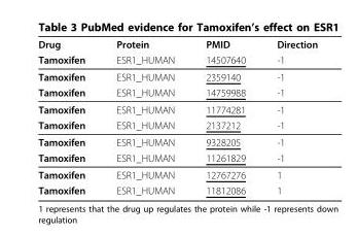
<table><thead><tr><td rowspan="2">Drug Tamoxifen</td><td rowspan="2">Protein ESR1_HUMAN</td><td rowspan="2">PMID 14507640</td><td rowspan="2">Direction -1</td></tr><tr></tr></thead><tbody><tr><td>Tamoxifen</td><td>ESR1_HUMAN</td><td>2359140</td><td>-1</td></tr><tr><td>Tamoxifen</td><td>ESR1_HUMAN</td><td>14759988</td><td>-1</td></tr><tr><td>Tamoxifen</td><td>ESR1_HUMAN</td><td>11774281</td><td>-1</td></tr><tr><td>Tamoxifen</td><td>ESR1_HUMAN</td><td>2137212</td><td>-1</td></tr><tr><td>Tamoxifen</td><td>ESR1_HUMAN</td><td>9328205</td><td>-1</td></tr><tr><td>Tamoxifen</td><td>ESR1_HUMAN</td><td>11261829</td><td>-1</td></tr><tr><td>Tamoxifen</td><td>ESR1_HUMAN</td><td>12767276</td><td>1</td></tr><tr><td>Tamoxifen</td><td>ESR1_HUMAN</td><td>11812086</td><td>1</td></tr></tbody></table>